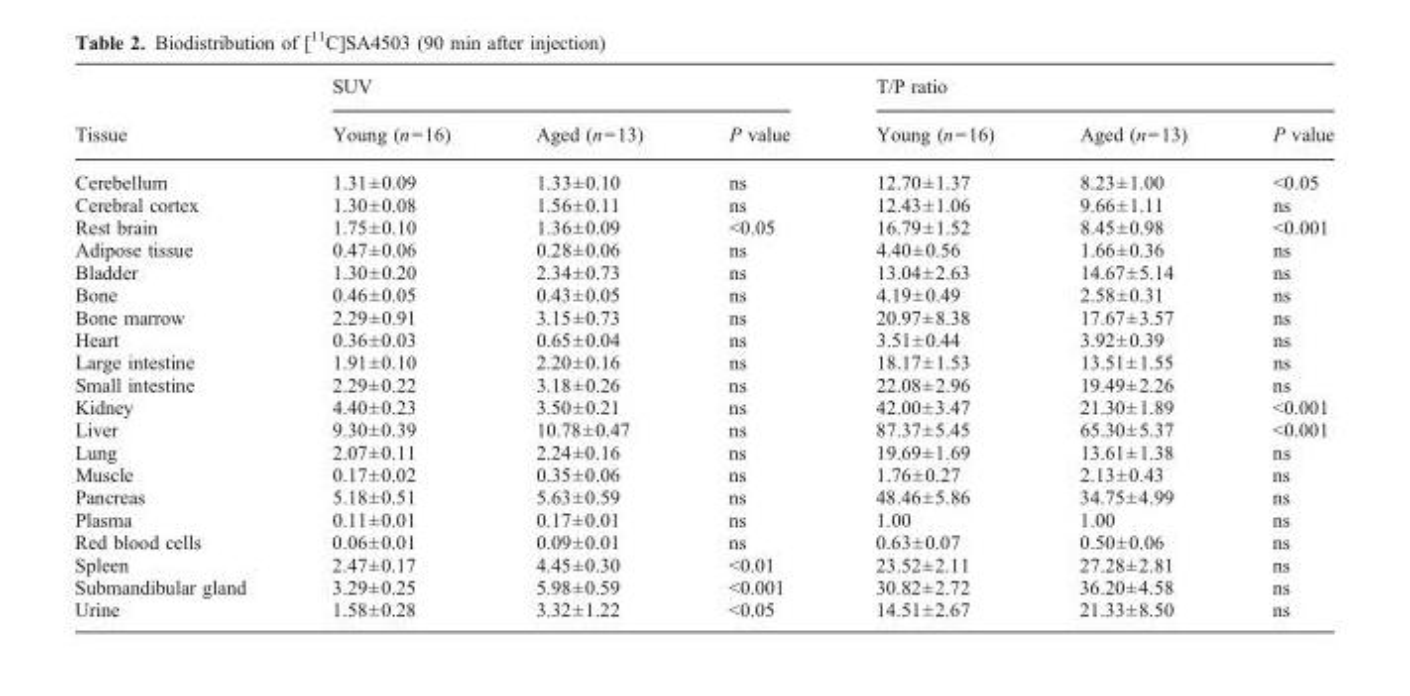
<table><thead><tr><td rowspan="2">Tissue</td><td colspan="3">SUV</td><td colspan="3">T/P ratio</td></tr><tr><td>Young (n=16)</td><td>Aged (n=13)</td><td>P value</td><td>Young (n=16)</td><td>Aged (n=13)</td><td>P value</td></tr></thead><tbody><tr><td>Cerebellum</td><td>1.31±0.09</td><td>1.33±0.10</td><td>ns</td><td>12.70±1.37</td><td>8.23±1.00</td><td>&lt;0.05</td></tr><tr><td>Cerebral cortex</td><td>1.30±0.08</td><td>1.56±0.11</td><td>ns</td><td>12.43±1.06</td><td>9.66±1.11</td><td>ns</td></tr><tr><td>Rest brain</td><td>1.75±0.10</td><td>1.36±0.09</td><td>&lt;0.05</td><td>16.79±1.52</td><td>8.45±0.98</td><td>&lt;0.001</td></tr><tr><td>Adipose tissue</td><td>0.47±0.06</td><td>0.28±0.06</td><td>ns</td><td>4.40±0.56</td><td>1.66±0.36</td><td>ns</td></tr><tr><td>Bladder</td><td>1.30±0.20</td><td>2.34±0.73</td><td>ns</td><td>13.04±2.63</td><td>14.67±5.14</td><td>ns</td></tr><tr><td>Bone</td><td>0.46±0.05</td><td>0.43±0.05</td><td>ns</td><td>4.19±0.49</td><td>2.58±0.31</td><td>ns</td></tr><tr><td>Bone marrow</td><td>2.29±0.91</td><td>3.15±0.73</td><td>ns</td><td>20.97±8.38</td><td>17.67±3.57</td><td>ns</td></tr><tr><td>Heart</td><td>0.36±0.03</td><td>0.65±0.04</td><td>ns</td><td>3.51±0.44</td><td>3.92±0.39</td><td>ns</td></tr><tr><td>Large intestine</td><td>1.91±0.10</td><td>2.20±0.16</td><td>ns</td><td>18.17±1.53</td><td>13.51±1.55</td><td>ns</td></tr><tr><td>Small intestine</td><td>2.29±0.22</td><td>3.18±0.26</td><td>ns</td><td>22.08±2.96</td><td>19.49±2.26</td><td>ns</td></tr><tr><td>Kidney</td><td>4.40±0.23</td><td>3.50±0.21</td><td>ns</td><td>42.00±3.47</td><td>21.30±1.89</td><td>&lt;0.001</td></tr><tr><td>Liver</td><td>9.30±0.39</td><td>10.78±0.47</td><td>ns</td><td>87.37±5.45</td><td>65.30±5.37</td><td>&lt;0.001</td></tr><tr><td>Lung</td><td>2.07±0.11</td><td>2.24±0.16</td><td>ns</td><td>19.69±1.69</td><td>13.61±1.38</td><td>ns</td></tr><tr><td>Muscle</td><td>0.17±0.02</td><td>0.35±0.06</td><td>ns</td><td>1.76±0.27</td><td>2.13±0.43</td><td>ns</td></tr><tr><td>Pancreas</td><td>5.18±0.51</td><td>5.63±0.59</td><td>ns</td><td>48.46±5.86</td><td>34.75±4.99</td><td>ns</td></tr><tr><td>Plasma</td><td>0.11±0.01</td><td>0.17±0.01</td><td>ns</td><td>1.00</td><td>1.00</td><td>ns</td></tr><tr><td>Red blood cells</td><td>0.06±0.01</td><td>0.09±0.01</td><td>ns</td><td>0.63±0.07</td><td>0.50±0.06</td><td>ns</td></tr><tr><td>Spleen</td><td>2.47±0.17</td><td>4.45±0.30</td><td>&lt;0.01</td><td>23.52±2.11</td><td>27.28±2.81</td><td>ns</td></tr><tr><td>Submandibular gland</td><td>3.29±0.25</td><td>5.98±0.59</td><td>&lt;0.001</td><td>30.82±2.72</td><td>36.20±4.58</td><td>ns</td></tr><tr><td>Urine</td><td>1.58±0.28</td><td>3.32±1.22</td><td>&lt;0.05</td><td>14.51±2.67</td><td>21.33±8.50</td><td>ns</td></tr></tbody></table>